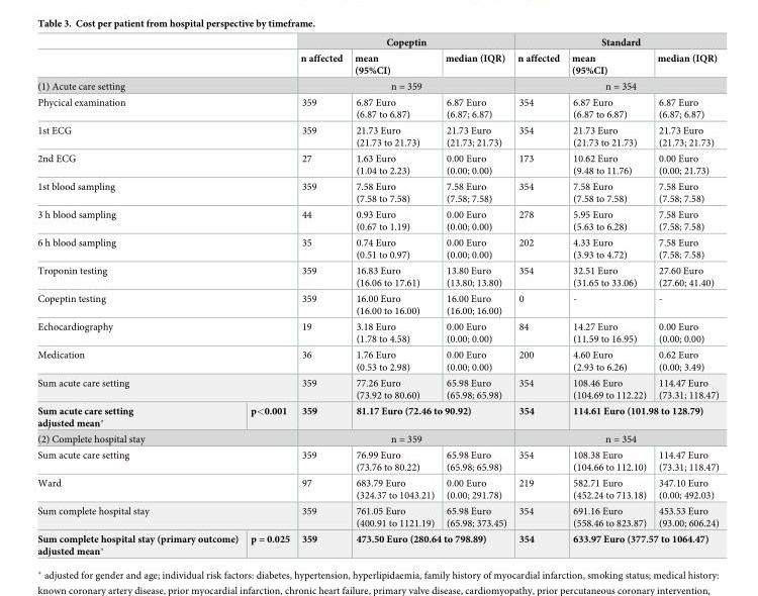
<table><thead><tr><td rowspan="2"></td><td rowspan="2"></td><td colspan="3">Copeptin</td><td colspan="3">Standard</td></tr><tr><td>n affected</td><td>mean (95%CI)</td><td>median (IQR)</td><td>n affected</td><td>mean (95%CI)</td><td>median (IQR)</td></tr></thead><tbody><tr><td colspan="2">(1) Acute care setting</td><td colspan="3">n = 359</td><td colspan="3">n = 354</td></tr><tr><td colspan="2">Phycical examination</td><td>359</td><td>6.87 Euro (6.87 to 6.87)</td><td>6.87 Euro (6.87; 6.87)</td><td>354</td><td>6.87 Euro (6.87 to 6.87)</td><td>6.87 Euro (6.87; 6.87)</td></tr><tr><td colspan="2">1st ECG</td><td>359</td><td>21.73 Euro (21.73 to 21.73)</td><td>21.73 Euro (21.73; 21.73)</td><td>354</td><td>21.73 Euro (21.73 to 21.73)</td><td>21.73 Euro (21.73; 21.73)</td></tr><tr><td colspan="2">2nd ECG</td><td>27</td><td>1.63 Euro (1.04 to 2.23)</td><td>0.00 Euro (0.00; 0.00)</td><td>173</td><td>10.62 Euro (9.48 to 11.76)</td><td>0.00 Euro (0.00; 21.73)</td></tr><tr><td colspan="2">1st blood sampling</td><td>359</td><td>7.58 Euro (7.58 to 7.58)</td><td>7.58 Euro (7.58; 7.58)</td><td>354</td><td>7.58 Euro (7.58 to 7.58)</td><td>7.58 Euro (7.58; 7.58)</td></tr><tr><td colspan="2">3 h blood sampling</td><td>44</td><td>0.93 Euro (0.67 to 1.19)</td><td>0.00 Euro (0.00; 0.00)</td><td>278</td><td>5.95 Euro (5.63 to 6.28)</td><td>7.58 Euro (7.58; 7.58)</td></tr><tr><td colspan="2">6 h blood sampling</td><td>35</td><td>0.74 Euro (0.51 to 0.97)</td><td>0.00 Euro (0.00; 0.00)</td><td>202</td><td>4.33 Euro (3.93 to 4.72)</td><td>7.58 Euro (7.58; 7.58)</td></tr><tr><td colspan="2">Troponin testing</td><td>359</td><td>16.83 Euro (16.06 to 17.61)</td><td>13.80 Euro (13.80; 13.80)</td><td>354</td><td>32.51 Euro (31.65 to 33.06)</td><td>27.60 Euro (27.60; 41.40)</td></tr><tr><td colspan="2">Copeptin testing</td><td>359</td><td>16.00 Euro (16.00 to 16.00)</td><td>16.00 Euro (16.00; 16.00)</td><td>0</td><td>-</td><td>-</td></tr><tr><td colspan="2">Echocardiography</td><td>19</td><td>3.18 Euro (1.78 to 4.58)</td><td>0.00 Euro (0.00; 0.00)</td><td>84</td><td>14.27 Euro (11.59 to 16.95)</td><td>0.00 Euro (0.00; 0.00)</td></tr><tr><td colspan="2">Medication</td><td>36</td><td>1.76 Euro (0.53 to 2.98)</td><td>0.00 Euro (0.00; 0.00)</td><td>200</td><td>4.60 Euro (2.93 to 6.26)</td><td>0.62 Euro (0.00; 3.49)</td></tr><tr><td colspan="2">Sum acute care setting</td><td>359</td><td>77.26 Euro (73.92 to 80.60)</td><td>65.98 Euro (65.98; 65.98)</td><td>354</td><td>108.46 Euro (104.69 to 112.22)</td><td>114.47 Euro (73.31; 118.47)</td></tr><tr><td>Sum acute care setting adjusted mean*</td><td>p&lt;0.001</td><td>359</td><td colspan="2">81.17 Euro (72.46 to 90.92)</td><td>354</td><td colspan="2">114.61 Euro (101.98 to 128.79)</td></tr><tr><td colspan="2">(2) Complete hospital stay</td><td colspan="3">n = 359</td><td colspan="3">n = 354</td></tr><tr><td colspan="2">Sum acute care setting</td><td>359</td><td>76.99 Euro (73.76 to 80.22)</td><td>65.98 Euro (65.98; 65.98)</td><td>354</td><td>108.38 Euro (104.66 to 112.10)</td><td>114.47 Euro (73.31; 118.47)</td></tr><tr><td colspan="2">Ward</td><td>97</td><td>683.79 Euro (324.37 to 1043.21)</td><td>0.00 Euro (0.00; 291.78)</td><td>219</td><td>582.71 Euro (452.24 to 713.18)</td><td>347.10 Euro (0.00; 492.03)</td></tr><tr><td colspan="2">Sum complete hospital stay</td><td>359</td><td>761.05 Euro (400.91 to 1121.19)</td><td>65.98 Euro (65.98; 373.45)</td><td>354</td><td>691.16 Euro (558.46 to 823.87)</td><td>453.53 Euro (93.00; 606.24)</td></tr><tr><td>Sum complete hospital stay (primary outcome) adjusted mean*</td><td>p = 0.025</td><td>359</td><td colspan="2">473.50 Euro (280.64 to 798.89)</td><td>354</td><td colspan="2">633.97 Euro (377.57 to 1064.47)</td></tr></tbody></table>